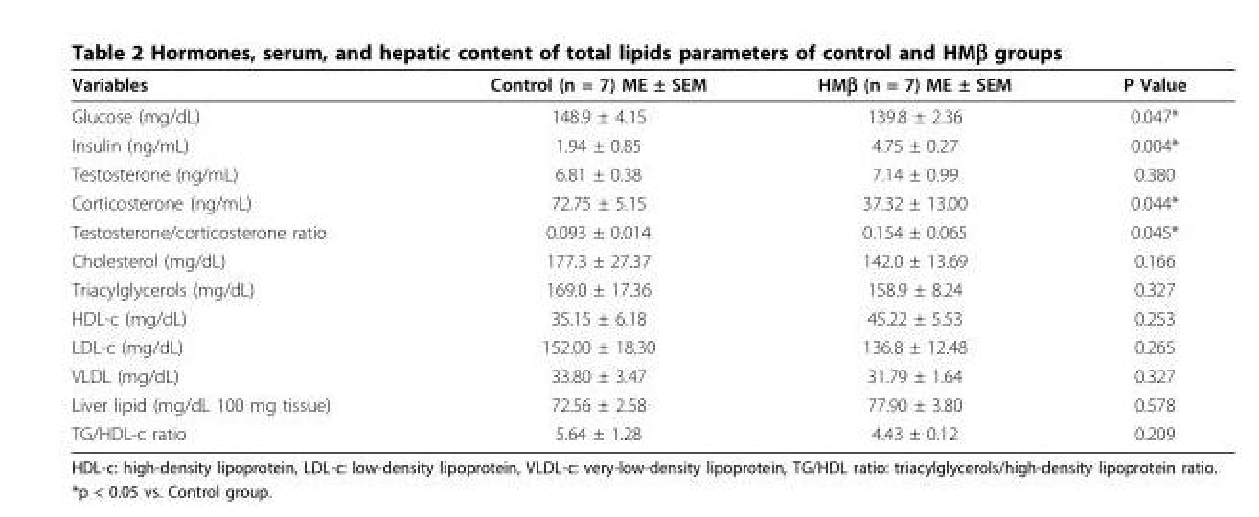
<table><thead><tr><td>Variables</td><td>Control (n = 7) ME ± SEM</td><td>HMβ (n = 7) ME ± SEM</td><td>P Value</td></tr></thead><tbody><tr><td>Glucose (mg/dL)</td><td>148.9 ± 4.15</td><td>139.8 ± 2.36</td><td>0.047*</td></tr><tr><td>Insulin (ng/mL)</td><td>1.94 ± 0.85</td><td>4.75 ± 0.27</td><td>0.004*</td></tr><tr><td>Testosterone (ng/mL)</td><td>6.81 ± 0.38</td><td>7.14 ± 0.99</td><td>0.380</td></tr><tr><td>Corticosterone (ng/mL)</td><td>72.75 ± 5.15</td><td>37.32 ± 13.00</td><td>0.044*</td></tr><tr><td>Testosterone/corticosterone ratio</td><td>0.093 ± 0.014</td><td>0.154 ± 0.065</td><td>0.045*</td></tr><tr><td>Cholesterol (mg/dL)</td><td>177.3 ± 27.37</td><td>142.0 ± 13.69</td><td>0.166</td></tr><tr><td>Triacylglycerols (mg/dL)</td><td>169.0 ± 17.36</td><td>158.9 ± 8.24</td><td>0.327</td></tr><tr><td>HDL-c (mg/dL)</td><td>35.15 ± 6.18</td><td>45.22 ± 5.53</td><td>0.253</td></tr><tr><td>LDL-c (mg/dL)</td><td>152.00 ± 18.30</td><td>136.8 ± 12.48</td><td>0.265</td></tr><tr><td>VLDL (mg/dL)</td><td>33.80 ± 3.47</td><td>31.79 ± 1.64</td><td>0.327</td></tr><tr><td>Liver lipid (mg/dL 100 mg tissue)</td><td>72.56 ± 2.58</td><td>77.90 ± 3.80</td><td>0.578</td></tr><tr><td>TG/HDL-c ratio</td><td>5.64 ± 1.28</td><td>4.43 ± 0.12</td><td>0.209</td></tr></tbody></table>